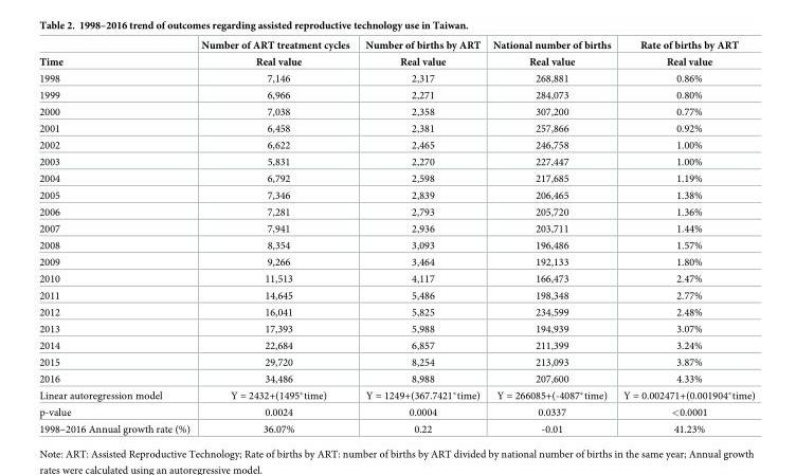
<table><thead><tr><td rowspan="2">Time</td><td rowspan="2">Number of ART treatment cycles Real value</td><td rowspan="2">Number of births by ART Real value</td><td rowspan="2">National number of births Real value</td><td rowspan="2">Rate of births by ART Real value</td></tr><tr></tr></thead><tbody><tr><td>1998</td><td>7,146</td><td>2,317</td><td>268,881</td><td>0.86%</td></tr><tr><td>1999</td><td>6,966</td><td>2,271</td><td>284,073</td><td>0.80%</td></tr><tr><td>2000</td><td>7,038</td><td>2,358</td><td>307,200</td><td>0.77%</td></tr><tr><td>2001</td><td>6,458</td><td>2,381</td><td>257,866</td><td>0.92%</td></tr><tr><td>2002</td><td>6,622</td><td>2,465</td><td>246,758</td><td>1.00%</td></tr><tr><td>2003</td><td>5,831</td><td>2,270</td><td>227,447</td><td>1.00%</td></tr><tr><td>2004</td><td>6,792</td><td>2,598</td><td>217,685</td><td>1.19%</td></tr><tr><td>2005</td><td>7,346</td><td>2,839</td><td>206,465</td><td>1.38%</td></tr><tr><td>2006</td><td>7,281</td><td>2,793</td><td>205,720</td><td>1.36%</td></tr><tr><td>2007</td><td>7,941</td><td>2,936</td><td>203,711</td><td>1.44%</td></tr><tr><td>2008</td><td>8,354</td><td>3,093</td><td>196,486</td><td>1.57%</td></tr><tr><td>2009</td><td>9,266</td><td>3,464</td><td>192,133</td><td>1.80%</td></tr><tr><td>2010</td><td>11,513</td><td>4,117</td><td>166,473</td><td>2.47%</td></tr><tr><td>2011</td><td>14,645</td><td>5,486</td><td>198,348</td><td>2.77%</td></tr><tr><td>2012</td><td>16,041</td><td>5,825</td><td>234,599</td><td>2.48%</td></tr><tr><td>2013</td><td>17,393</td><td>5,988</td><td>194,939</td><td>3.07%</td></tr><tr><td>2014</td><td>22,684</td><td>6,857</td><td>211,399</td><td>3.24%</td></tr><tr><td>2015</td><td>29,720</td><td>8,254</td><td>213,093</td><td>3.87%</td></tr><tr><td>2016</td><td>34,486</td><td>8,988</td><td>207,600</td><td>4.33%</td></tr><tr><td>Linear autoregression model</td><td>Y = 2432+(1495*time)</td><td>Y = 1249+(367.7421*time)</td><td>Y = 266085+(-4087*time)</td><td>Y = 0.002471+(0.001904*time)</td></tr><tr><td>p-value</td><td>0.0024</td><td>0.0004</td><td>0.0337</td><td>&lt;0.0001</td></tr><tr><td>1998–2016 Annual growth rate (%)</td><td>36.07%</td><td>0.22</td><td>-0.01</td><td>41.23%</td></tr></tbody></table>